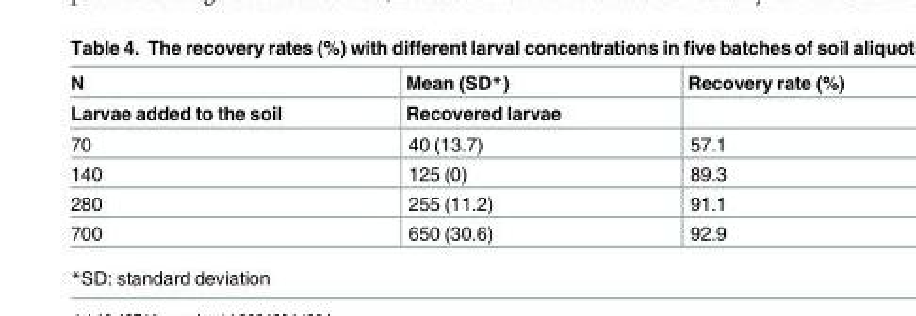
<table><thead><tr><td rowspan="2">N Larvae added to the soil</td><td rowspan="2">Mean (SD*) Recovered larvae</td><td rowspan="2">Recovery rate (%)</td></tr><tr></tr></thead><tbody><tr><td>70</td><td>40 (13.7)</td><td>57.1</td></tr><tr><td>140</td><td>125 (0)</td><td>89.3</td></tr><tr><td>280</td><td>255 (11.2)</td><td>91.1</td></tr><tr><td>700</td><td>650 (30.6)</td><td>92.9</td></tr></tbody></table>